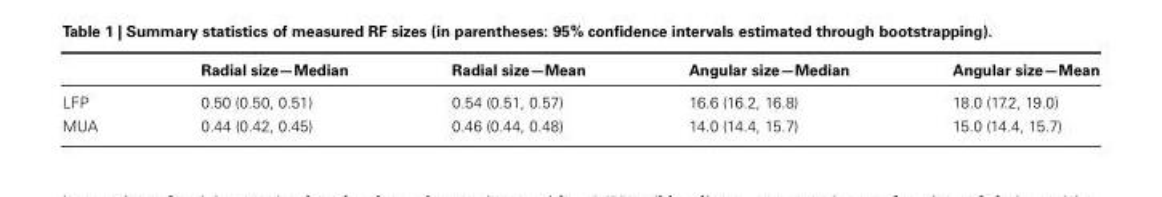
<table><thead><tr><td></td><td>Radial size—Median</td><td>Radial size—Mean</td><td>Angular size—Median</td><td>Angular size—Mean</td></tr></thead><tbody><tr><td>LFP</td><td>0.50 (0.50, 0.51)</td><td>0.54 (0.51, 0.57)</td><td>16.6 (16.2, 16.8)</td><td>18.0 (17.2, 19.0)</td></tr><tr><td>MUA</td><td>0.44 (0.42, 0.45)</td><td>0.46 (0.44, 0.48)</td><td>14.0 (14.4, 15.7)</td><td>15.0 (14.4, 15.7)</td></tr></tbody></table>